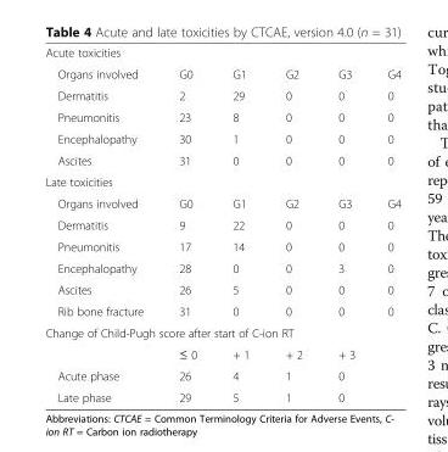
<table><tbody><tr><td colspan="6">Acute toxicities</td></tr><tr><td>Organs involved</td><td>G0</td><td>G1</td><td>G2</td><td>G3</td><td>G4</td></tr><tr><td>Dermatitis</td><td>2</td><td>29</td><td>0</td><td>0</td><td>0</td></tr><tr><td>Pneumonitis</td><td>23</td><td>8</td><td>0</td><td>0</td><td>0</td></tr><tr><td>Encephalopathy</td><td>30</td><td>1</td><td>0</td><td>0</td><td>0</td></tr><tr><td>Ascites</td><td>31</td><td>0</td><td>0</td><td>0</td><td>0</td></tr><tr><td colspan="6">Late toxicities</td></tr><tr><td>Organs involved</td><td>G0</td><td>G1</td><td>G2</td><td>G3</td><td>G4</td></tr><tr><td>Dermatitis</td><td>9</td><td>22</td><td>0</td><td>0</td><td>0</td></tr><tr><td>Pneumonitis</td><td>17</td><td>14</td><td>0</td><td>0</td><td>0</td></tr><tr><td>Encephalopathy</td><td>28</td><td>0</td><td>0</td><td>3</td><td>0</td></tr><tr><td>Ascites</td><td>26</td><td>5</td><td>0</td><td>0</td><td>0</td></tr><tr><td>Rib bone fracture</td><td>31</td><td>0</td><td>0</td><td>0</td><td>0</td></tr><tr><td colspan="6">Change of Child-Pugh score after start of C-ion RT</td></tr><tr><td></td><td>≤ 0</td><td>+ 1</td><td>+ 2</td><td colspan="2">+ 3</td></tr><tr><td>Acute phase</td><td>26</td><td>4</td><td>1</td><td colspan="2">0</td></tr><tr><td>Late phase</td><td>29</td><td>5</td><td>1</td><td colspan="2">0</td></tr></tbody></table>